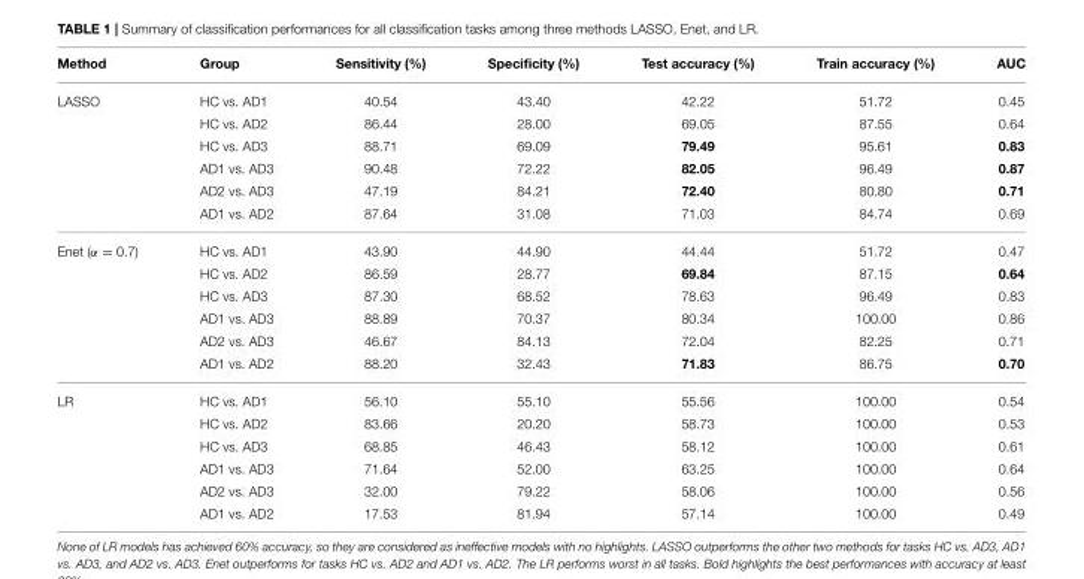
<table><thead><tr><td>Method</td><td>Group</td><td>Sensitivity (%)</td><td>Specificity (%)</td><td>Test accuracy (%)</td><td>Train accuracy (%)</td><td>AUC</td></tr></thead><tbody><tr><td rowspan="6">LASSO</td><td>HC vs. AD1</td><td>40.54</td><td>43.40</td><td>42.22</td><td>51.72</td><td>0.45</td></tr><tr><td>HC vs. AD2</td><td>86.44</td><td>28.00</td><td>69.05</td><td>87.55</td><td>0.64</td></tr><tr><td>HC vs. AD3</td><td>88.71</td><td>69.09</td><td>79.49</td><td>95.61</td><td>0.83</td></tr><tr><td>AD1 vs. AD3</td><td>90.48</td><td>72.22</td><td>82.05</td><td>96.49</td><td>0.87</td></tr><tr><td>AD2 vs. AD3</td><td>47.19</td><td>84.21</td><td>72.40</td><td>80.80</td><td>0.71</td></tr><tr><td>AD1 vs. AD2</td><td>87.64</td><td>31.08</td><td>71.03</td><td>84.74</td><td>0.69</td></tr><tr><td rowspan="6">Enet (α = 0.7)</td><td>HC vs. AD1</td><td>43.90</td><td>44.90</td><td>44.44</td><td>51.72</td><td>0.47</td></tr><tr><td>HC vs. AD2</td><td>86.59</td><td>28.77</td><td>69.84</td><td>87.15</td><td>0.64</td></tr><tr><td>HC vs. AD3</td><td>87.30</td><td>68.52</td><td>78.63</td><td>96.49</td><td>0.83</td></tr><tr><td>AD1 vs. AD3</td><td>88.89</td><td>70.37</td><td>80.34</td><td>100.00</td><td>0.86</td></tr><tr><td>AD2 vs. AD3</td><td>46.67</td><td>84.13</td><td>72.04</td><td>82.25</td><td>0.71</td></tr><tr><td>AD1 vs. AD2</td><td>88.20</td><td>32.43</td><td>71.83</td><td>86.75</td><td>0.70</td></tr><tr><td rowspan="6">LR</td><td>HC vs. AD1</td><td>56.10</td><td>55.10</td><td>55.56</td><td>100.00</td><td>0.54</td></tr><tr><td>HC vs. AD2</td><td>83.66</td><td>20.20</td><td>58.73</td><td>100.00</td><td>0.53</td></tr><tr><td>HC vs. AD3</td><td>68.85</td><td>46.43</td><td>58.12</td><td>100.00</td><td>0.61</td></tr><tr><td>AD1 vs. AD3</td><td>71.64</td><td>52.00</td><td>63.25</td><td>100.00</td><td>0.64</td></tr><tr><td>AD2 vs. AD3</td><td>32.00</td><td>79.22</td><td>58.06</td><td>100.00</td><td>0.56</td></tr><tr><td>AD1 vs. AD2</td><td>17.53</td><td>81.94</td><td>57.14</td><td>100.00</td><td>0.49</td></tr></tbody></table>